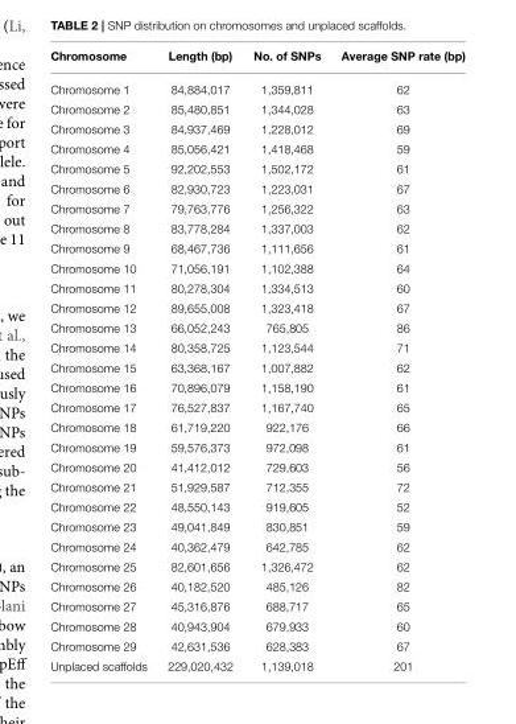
<table><thead><tr><td>Chromosome</td><td>Length (bp)</td><td>No. of SNPs</td><td>Average SNP rate (bp)</td></tr></thead><tbody><tr><td>Chromosome 1</td><td>84,884,017</td><td>1,359,811</td><td>62</td></tr><tr><td>Chromosome 2</td><td>85,480,851</td><td>1,344,028</td><td>63</td></tr><tr><td>Chromosome 3</td><td>84,937,469</td><td>1,228,012</td><td>69</td></tr><tr><td>Chromosome 4</td><td>85,056,421</td><td>1,418,468</td><td>59</td></tr><tr><td>Chromosome 5</td><td>92,202,553</td><td>1,502,172</td><td>61</td></tr><tr><td>Chromosome 6</td><td>82,930,723</td><td>1,223,031</td><td>67</td></tr><tr><td>Chromosome 7</td><td>79,763,776</td><td>1,256,322</td><td>63</td></tr><tr><td>Chromosome 8</td><td>83,778,284</td><td>1,337,003</td><td>62</td></tr><tr><td>Chromosome 9</td><td>68,467,736</td><td>1,111,656</td><td>61</td></tr><tr><td>Chromosome 10</td><td>71,056,191</td><td>1,102,388</td><td>64</td></tr><tr><td>Chromosome 11</td><td>80,278,304</td><td>1,334,513</td><td>60</td></tr><tr><td>Chromosome 12</td><td>89,655,008</td><td>1,323,418</td><td>67</td></tr><tr><td>Chromosome 13</td><td>66,052,243</td><td>765,805</td><td>86</td></tr><tr><td>Chromosome 14</td><td>80,358,725</td><td>1,123,544</td><td>71</td></tr><tr><td>Chromosome 15</td><td>63,368,167</td><td>1,007,882</td><td>62</td></tr><tr><td>Chromosome 16</td><td>70,896,079</td><td>1,158,190</td><td>61</td></tr><tr><td>Chromosome 17</td><td>76,527,837</td><td>1,167,740</td><td>65</td></tr><tr><td>Chromosome 18</td><td>61,719,220</td><td>922,176</td><td>66</td></tr><tr><td>Chromosome 19</td><td>59,576,373</td><td>972,098</td><td>61</td></tr><tr><td>Chromosome 20</td><td>41,412,012</td><td>729,603</td><td>56</td></tr><tr><td>Chromosome 21</td><td>51,929,587</td><td>712,355</td><td>72</td></tr><tr><td>Chromosome 22</td><td>48,550,143</td><td>919,605</td><td>52</td></tr><tr><td>Chromosome 23</td><td>49,041,849</td><td>830,851</td><td>59</td></tr><tr><td>Chromosome 24</td><td>40,362,479</td><td>642,785</td><td>62</td></tr><tr><td>Chromosome 25</td><td>82,601,656</td><td>1,326,472</td><td>62</td></tr><tr><td>Chromosome 26</td><td>40,182,520</td><td>485,126</td><td>82</td></tr><tr><td>Chromosome 27</td><td>45,316,876</td><td>688,717</td><td>65</td></tr><tr><td>Chromosome 28</td><td>40,943,904</td><td>679,933</td><td>60</td></tr><tr><td>Chromosome 29</td><td>42,631,536</td><td>628,383</td><td>67</td></tr><tr><td>Unplaced scaffolds</td><td>229,020,432</td><td>1,139,018</td><td>201</td></tr></tbody></table>